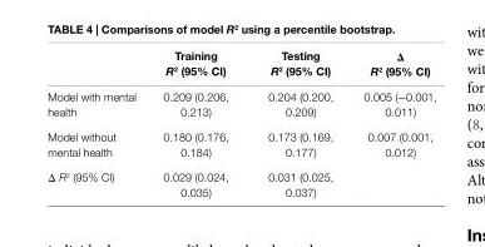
<table><thead><tr><td></td><td>Training R<sup>2</sup> (95% ci)</td><td>Testing R<sup>2</sup> (95% ci)</td><td>Δ R<sup>2</sup> (95% ci)</td></tr></thead><tbody><tr><td>Model with mental health</td><td>0.209 (0.206, 0.213)</td><td>0.204 (0.200, 0.209)</td><td>0.005 (−0.001, 0.011)</td></tr><tr><td>Model without mental health</td><td>0.180 (0.176, 0.184)</td><td>0.173 (0.169, 0.177)</td><td>0.007 (0.001, 0.012)</td></tr><tr><td>Δ R<sup>2</sup> (95% CI)</td><td>0.029 (0.024, 0.035)</td><td>0.031 (0.025, 0.037)</td><td></td></tr></tbody></table>